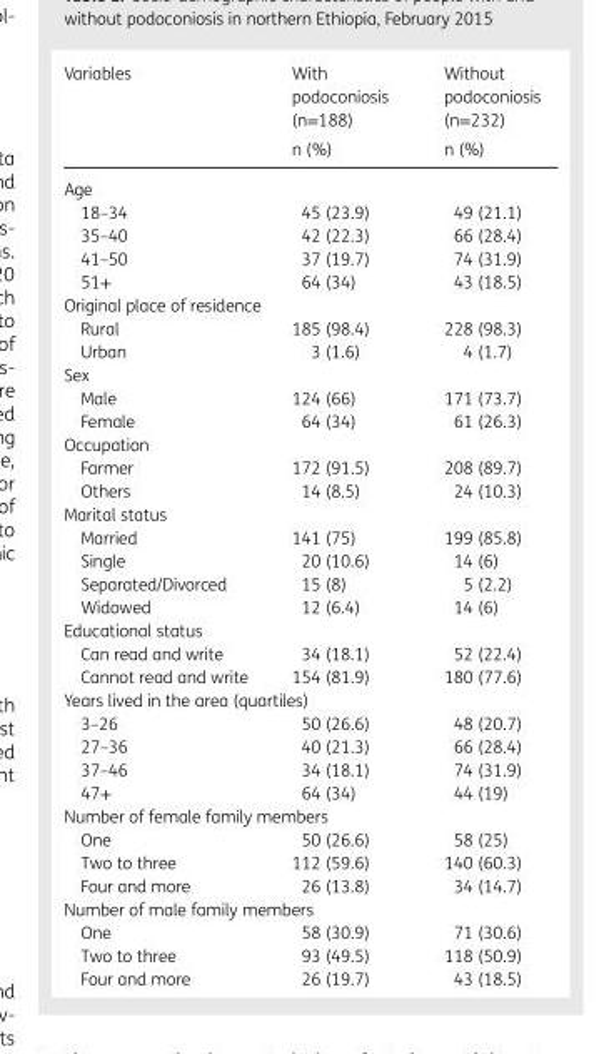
<table><thead><tr><td rowspan="2">Variables</td><td rowspan="2">With podoconiosis (n=188) n (%)</td><td rowspan="2">Without podoconiosis (n=232) n (%)</td></tr><tr></tr></thead><tbody><tr><td colspan="3">Age</td></tr><tr><td>18–34</td><td>45 (23.9)</td><td>49 (21.1)</td></tr><tr><td>35–40</td><td>42 (22.3)</td><td>66 (28.4)</td></tr><tr><td>41–50</td><td>37 (19.7)</td><td>74 (31.9)</td></tr><tr><td>51+</td><td>64 (34)</td><td>43 (18.5)</td></tr><tr><td colspan="3">Original place of residence</td></tr><tr><td>Rural</td><td>185 (98.4)</td><td>228 (98.3)</td></tr><tr><td>Urban</td><td>3 (1.6)</td><td>4 (1.7)</td></tr><tr><td colspan="3">Sex</td></tr><tr><td>Male</td><td>124 (66)</td><td>171 (73.7)</td></tr><tr><td>Female</td><td>64 (34)</td><td>61 (26.3)</td></tr><tr><td colspan="3">Occupation</td></tr><tr><td>Farmer</td><td>172 (91.5)</td><td>208 (89.7)</td></tr><tr><td>Others</td><td>14 (8.5)</td><td>24 (10.3)</td></tr><tr><td colspan="3">Marital status</td></tr><tr><td>Married</td><td>141 (75)</td><td>199 (85.8)</td></tr><tr><td>Single</td><td>20 (10.6)</td><td>14 (6)</td></tr><tr><td>Separated/Divorced</td><td>15 (8)</td><td>5 (2.2)</td></tr><tr><td>Widowed</td><td>12 (6.4)</td><td>14 (6)</td></tr><tr><td colspan="3">Educational status</td></tr><tr><td>Can read and write</td><td>34 (18.1)</td><td>52 (22.4)</td></tr><tr><td>Cannot read and write</td><td>154 (81.9)</td><td>180 (77.6)</td></tr><tr><td colspan="3">Years lived in the area (quartiles)</td></tr><tr><td>3–26</td><td>50 (26.6)</td><td>48 (20.7)</td></tr><tr><td>27–36</td><td>40 (21.3)</td><td>66 (28.4)</td></tr><tr><td>37–46</td><td>34 (18.1)</td><td>74 (31.9)</td></tr><tr><td>47+</td><td>64 (34)</td><td>44 (19)</td></tr><tr><td colspan="3">Number of female family members</td></tr><tr><td>One</td><td>50 (26.6)</td><td>58 (25)</td></tr><tr><td>Two to three</td><td>112 (59.6)</td><td>140 (60.3)</td></tr><tr><td>Four and more</td><td>26 (13.8)</td><td>34 (14.7)</td></tr><tr><td colspan="3">Number of male family members</td></tr><tr><td>One</td><td>58 (30.9)</td><td>71 (30.6)</td></tr><tr><td>Two to three</td><td>93 (49.5)</td><td>118 (50.9)</td></tr><tr><td>Four and more</td><td>26 (19.7)</td><td>43 (18.5)</td></tr></tbody></table>